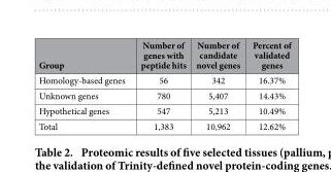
<table><thead><tr><td>Group</td><td>Number of genes with peptide hits</td><td>Number of candidate novel genes</td><td>Percent of validated genes</td></tr></thead><tbody><tr><td>Homology-based genes</td><td>56</td><td>342</td><td>16.37%</td></tr><tr><td>Unknown genes</td><td>780</td><td>5,407</td><td>14.43%</td></tr><tr><td>Hypothetical genes</td><td>547</td><td>5,213</td><td>10.49%</td></tr><tr><td>Total</td><td>1,383</td><td>10,962</td><td>12.62%</td></tr></tbody></table>